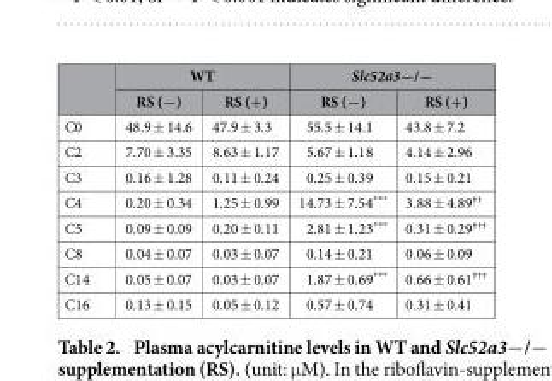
<table><thead><tr><td rowspan="2"></td><td colspan="2">WT</td><td colspan="2">Slc52a3−/−</td></tr><tr><td>RS (−)</td><td>RS (+)</td><td>RS (−)</td><td>RS (+)</td></tr></thead><tbody><tr><td>C0</td><td>48.9 ± 14.6</td><td>47.9 ± 3.3</td><td>55.5 ± 14.1</td><td>43.8 ± 7.2</td></tr><tr><td>C2</td><td>7.70 ± 3.35</td><td>8.63 ± 1.17</td><td>5.67 ± 1.18</td><td>4.14 ± 2.96</td></tr><tr><td>C3</td><td>0.16 ± 1.28</td><td>0.11 ± 0.24</td><td>0.25 ± 0.39</td><td>0.15 ± 0.21</td></tr><tr><td>C4</td><td>0.20 ± 0.34</td><td>1.25 ± 0.99</td><td>14.73 ± 7.54***</td><td>3.88 ± 4.89<sup>††</sup></td></tr><tr><td>C5</td><td>0.09 ± 0.09</td><td>0.20 ± 0.11</td><td>2.81 ± 1.23***</td><td>0.31 ± 0.29<sup>†††</sup></td></tr><tr><td>C8</td><td>0.04 ± 0.07</td><td>0.03 ± 0.07</td><td>0.14 ± 0.21</td><td>0.06 ± 0.09</td></tr><tr><td>C14</td><td>0.05 ± 0.07</td><td>0.03 ± 0.07</td><td>1.87 ± 0.69***</td><td>0.66 ± 0.61<sup>†††</sup></td></tr><tr><td>C16</td><td>0.13 ± 0.15</td><td>0.05 ± 0.12</td><td>0.57 ± 0.74</td><td>0.31 ± 0.41</td></tr></tbody></table>